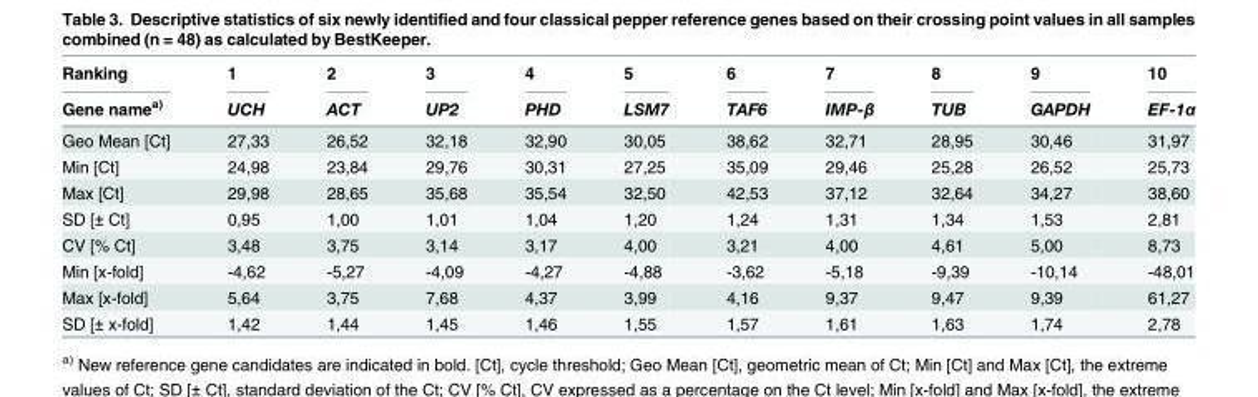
<table><thead><tr><td rowspan="2">Ranking Gene name<sup>a)</sup></td><td rowspan="2">1 UCH</td><td rowspan="2">2 ACT</td><td rowspan="2">3 UP2</td><td rowspan="2">4 PHD</td><td rowspan="2">5 LSM7</td><td rowspan="2">6 TAF6</td><td rowspan="2">7 IMP-β</td><td rowspan="2">8 TUB</td><td rowspan="2">9 GAPDH</td><td rowspan="2">10 EF-1α</td></tr><tr></tr></thead><tbody><tr><td>Geo Mean [Ct]</td><td>27,33</td><td>26,52</td><td>32,18</td><td>32,90</td><td>30,05</td><td>38,62</td><td>32,71</td><td>28,95</td><td>30,46</td><td>31,97</td></tr><tr><td>Min [Ct]</td><td>24,98</td><td>23,84</td><td>29,76</td><td>30,31</td><td>27,25</td><td>35,09</td><td>29,46</td><td>25,28</td><td>26,52</td><td>25,73</td></tr><tr><td>Max [Ct]</td><td>29,98</td><td>28,65</td><td>35,68</td><td>35,54</td><td>32,50</td><td>42,53</td><td>37,12</td><td>32,64</td><td>34,27</td><td>38,60</td></tr><tr><td>SD [± Ct]</td><td>0,95</td><td>1,00</td><td>1,01</td><td>1,04</td><td>1,20</td><td>1,24</td><td>1,31</td><td>1,34</td><td>1,53</td><td>2,81</td></tr><tr><td>CV [% Ct]</td><td>3,48</td><td>3,75</td><td>3,14</td><td>3,17</td><td>4,00</td><td>3,21</td><td>4,00</td><td>4,61</td><td>5,00</td><td>8,73</td></tr><tr><td>Min [x-fold]</td><td>-4,62</td><td>-5,27</td><td>-4,09</td><td>-4,27</td><td>-4,88</td><td>-3,62</td><td>-5,18</td><td>-9,39</td><td>-10,14</td><td>-48,01</td></tr><tr><td>Max [x-fold]</td><td>5,64</td><td>3,75</td><td>7,68</td><td>4,37</td><td>3,99</td><td>4,16</td><td>9,37</td><td>9,47</td><td>9,39</td><td>61,27</td></tr><tr><td>SD [± x-fold]</td><td>1,42</td><td>1,44</td><td>1,45</td><td>1,46</td><td>1,55</td><td>1,57</td><td>1,61</td><td>1,63</td><td>1,74</td><td>2,78</td></tr></tbody></table>